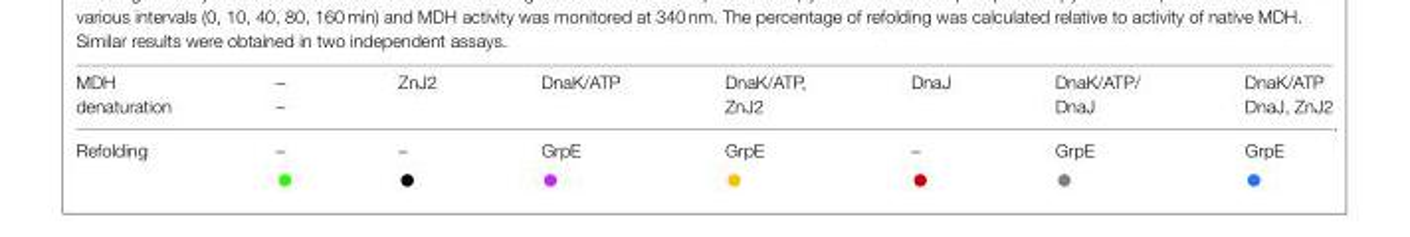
<table><tbody><tr><td>MDH</td><td>–</td><td>ZnJ2</td><td>DnaK/ATP</td><td>DnaK/ATP,</td><td>DnaJ</td><td>DnaK/ATP/</td><td>DnaK/ATP</td></tr><tr><td>denaturation</td><td>–</td><td></td><td></td><td>ZnJ2</td><td></td><td>DnaJ</td><td>DnaJ, ZnJ2</td></tr><tr><td>Refolding</td><td>–</td><td>–</td><td>GrpE</td><td>GrpE</td><td>–</td><td>GrpE</td><td>GrpE</td></tr></tbody></table>